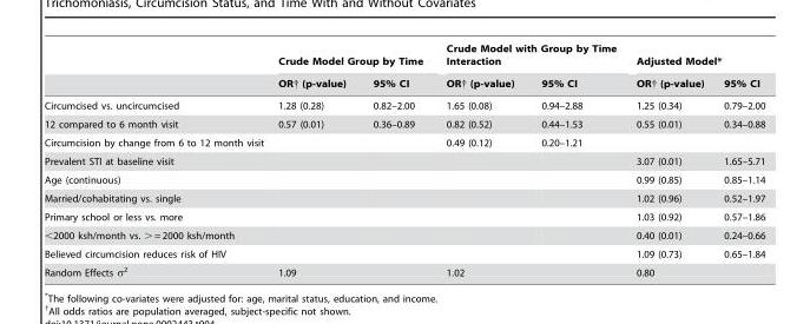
<table><thead><tr><td rowspan="2"></td><td colspan="2">Crude Model Group by Time</td><td colspan="2">Crude Model with Group by Time Interaction</td><td colspan="2">Adjusted Model*</td></tr><tr><td>OR† (p-value)</td><td>95% CI</td><td>OR† (p-value)</td><td>95% CI</td><td>OR† (p-value)</td><td>95% CI</td></tr></thead><tbody><tr><td>Circumcised vs. uncircumcised</td><td>1.28 (0.28)</td><td>0.82–2.00</td><td>1.65 (0.08)</td><td>0.94–2.88</td><td>1.25 (0.34)</td><td>0.79–2.00</td></tr><tr><td>12 compared to 6 month visit</td><td>0.57 (0.01)</td><td>0.36–0.89</td><td>0.82 (0.52)</td><td>0.44–1.53</td><td>0.55 (0.01)</td><td>0.34–0.88</td></tr><tr><td>Circumcision by change from 6 to 12 month visit</td><td></td><td></td><td>0.49 (0.12)</td><td>0.20–1.21</td><td></td><td></td></tr><tr><td>Prevalent STI at baseline visit</td><td></td><td></td><td></td><td></td><td>3.07 (0.01)</td><td>1.65–5.71</td></tr><tr><td>Age (continuous)</td><td></td><td></td><td></td><td></td><td>0.99 (0.85)</td><td>0.85–1.14</td></tr><tr><td>Married/cohabitating vs. single</td><td></td><td></td><td></td><td></td><td>1.02 (0.96)</td><td>0.52–1.97</td></tr><tr><td>Primary school or less vs. more</td><td></td><td></td><td></td><td></td><td>1.03 (0.92)</td><td>0.57–1.86</td></tr><tr><td>&lt;2000 ksh/month vs. &gt; = 2000 ksh/month</td><td></td><td></td><td></td><td></td><td>0.40 (0.01)</td><td>0.24–0.66</td></tr><tr><td>Believed circumcision reduces risk of HIV</td><td></td><td></td><td></td><td></td><td>1.09 (0.73)</td><td>0.65–1.84</td></tr><tr><td>Random Effects σ<sup>2</sup></td><td colspan="2">1.09</td><td colspan="2">1.02</td><td colspan="2">0.80</td></tr></tbody></table>